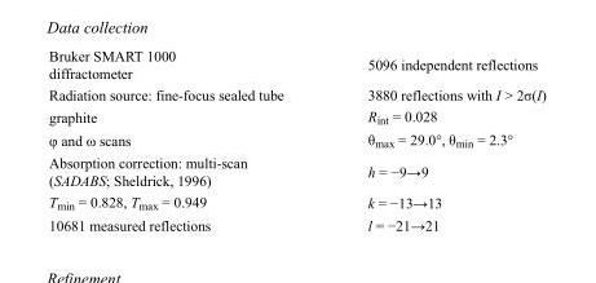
<table><tbody><tr><td>Bruker SMART 1000 diffractometer</td><td>5096 independent reflections</td></tr><tr><td>Radiation source: fine-focus sealed tube</td><td>3880 reflections with I &gt; 2σ(I)</td></tr><tr><td>graphite</td><td>R<sub>int</sub> = 0.028</td></tr><tr><td>φ and ω scans</td><td>θ<sub>max</sub> = 29.0°, θ<sub>min</sub> = 2.3°</td></tr><tr><td>Absorption correction: multi-scan (SADABS; Sheldrick, 1996)</td><td>h = −9→9</td></tr><tr><td>T<sub>min</sub> = 0.828, T<sub>max</sub> = 0.949</td><td>k = −13→13</td></tr><tr><td>10681 measured reflections</td><td>l = −21→21</td></tr></tbody></table>